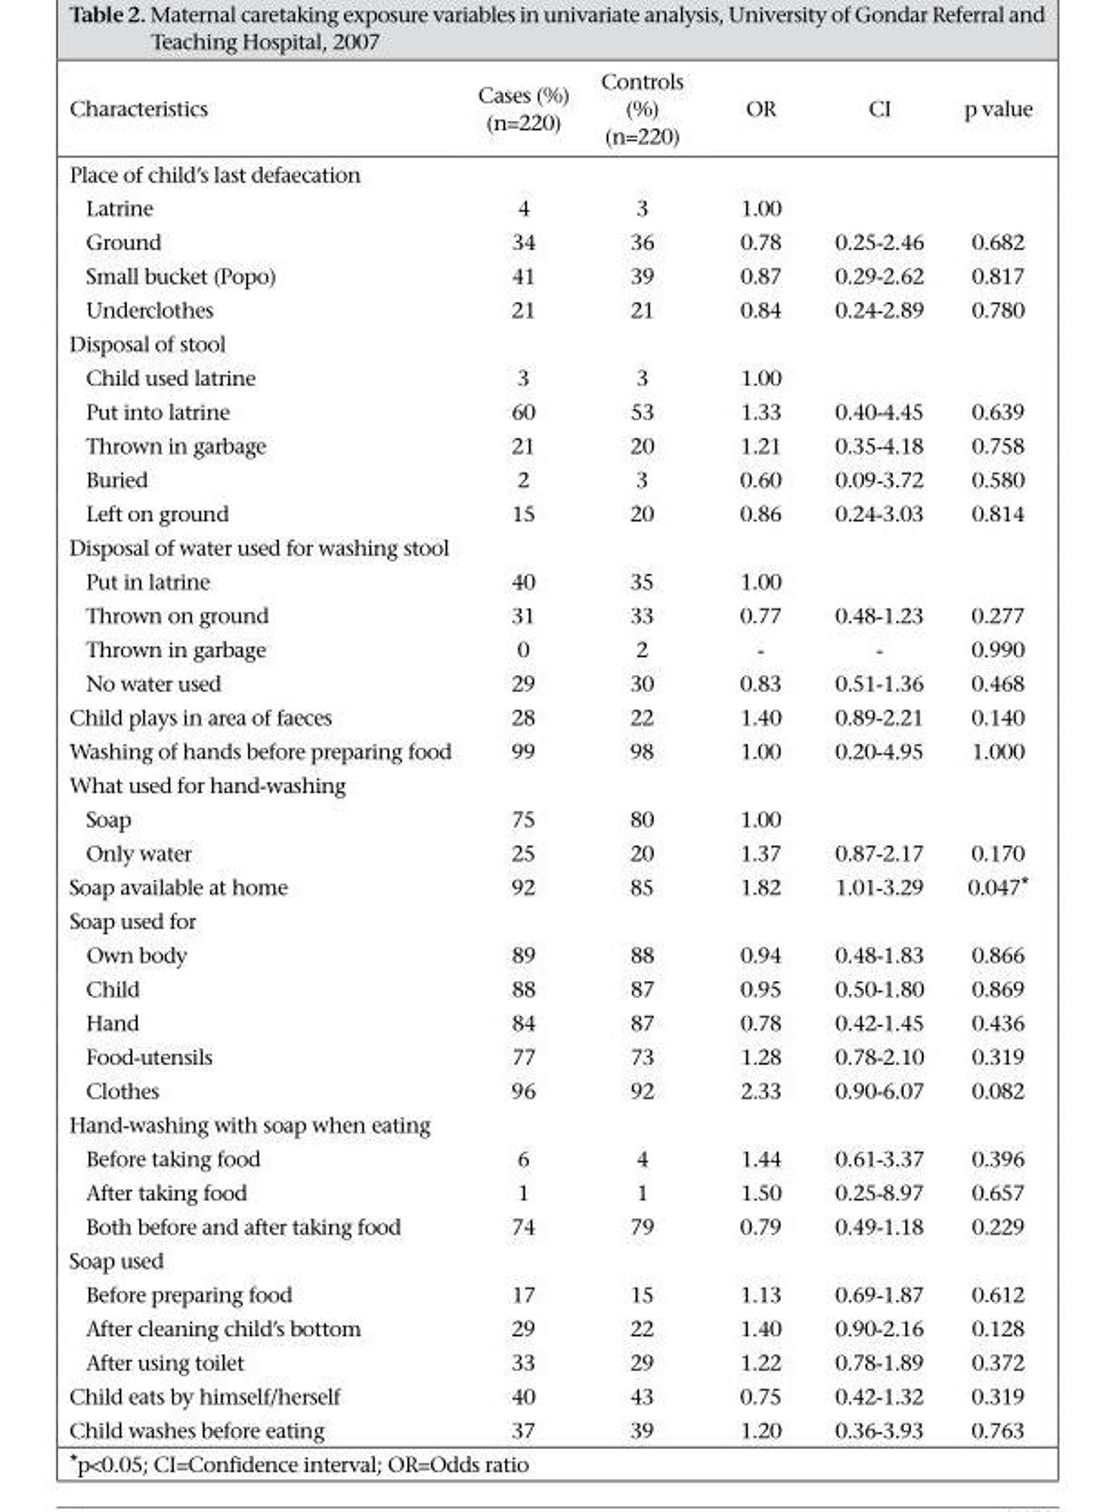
<table><thead><tr><td>Characteristics</td><td>Cases (%) (n=220)</td><td>Controls (%) (n=220)</td><td>OR</td><td>CI</td><td>p value</td></tr></thead><tbody><tr><td colspan="6">Place of child’s last defaecation</td></tr><tr><td>Latrine</td><td>4</td><td>3</td><td>1.00</td><td></td><td></td></tr><tr><td>Ground</td><td>34</td><td>36</td><td>0.78</td><td>0.25-2.46</td><td>0.682</td></tr><tr><td>Small bucket (Popo)</td><td>41</td><td>39</td><td>0.87</td><td>0.29-2.62</td><td>0.817</td></tr><tr><td>Underclothes</td><td>21</td><td>21</td><td>0.84</td><td>0.24-2.89</td><td>0.780</td></tr><tr><td colspan="6">Disposal of stool</td></tr><tr><td>Child used latrine</td><td>3</td><td>3</td><td>1.00</td><td></td><td></td></tr><tr><td>Put into latrine</td><td>60</td><td>53</td><td>1.33</td><td>0.40-4.45</td><td>0.639</td></tr><tr><td>Thrown in garbage</td><td>21</td><td>20</td><td>1.21</td><td>0.35-4.18</td><td>0.758</td></tr><tr><td>Buried</td><td>2</td><td>3</td><td>0.60</td><td>0.09-3.72</td><td>0.580</td></tr><tr><td>Left on ground</td><td>15</td><td>20</td><td>0.86</td><td>0.24-3.03</td><td>0.814</td></tr><tr><td colspan="6">Disposal of water used for washing stool</td></tr><tr><td>Put in latrine</td><td>40</td><td>35</td><td>1.00</td><td></td><td></td></tr><tr><td>Thrown on ground</td><td>31</td><td>33</td><td>0.77</td><td>0.48-1.23</td><td>0.277</td></tr><tr><td>Thrown in garbage</td><td>0</td><td>2</td><td>-</td><td>-</td><td>0.990</td></tr><tr><td>No water used</td><td>29</td><td>30</td><td>0.83</td><td>0.51-1.36</td><td>0.468</td></tr><tr><td>Child plays in area of faeces</td><td>28</td><td>22</td><td>1.40</td><td>0.89-2.21</td><td>0.140</td></tr><tr><td>Washing of hands before preparing food</td><td>99</td><td>98</td><td>1.00</td><td>0.20-4.95</td><td>1.000</td></tr><tr><td colspan="6">What used for hand-washing</td></tr><tr><td>Soap</td><td>75</td><td>80</td><td>1.00</td><td></td><td></td></tr><tr><td>Only water</td><td>25</td><td>20</td><td>1.37</td><td>0.87-2.17</td><td>0.170</td></tr><tr><td>Soap available at home</td><td>92</td><td>85</td><td>1.82</td><td>1.01-3.29</td><td>0.047*</td></tr><tr><td colspan="6">Soap used for</td></tr><tr><td>Own body</td><td>89</td><td>88</td><td>0.94</td><td>0.48-1.83</td><td>0.866</td></tr><tr><td>Child</td><td>88</td><td>87</td><td>0.95</td><td>0.50-1.80</td><td>0.869</td></tr><tr><td>Hand</td><td>84</td><td>87</td><td>0.78</td><td>0.42-1.45</td><td>0.436</td></tr><tr><td>Food-utensils</td><td>77</td><td>73</td><td>1.28</td><td>0.78-2.10</td><td>0.319</td></tr><tr><td>Clothes</td><td>96</td><td>92</td><td>2.33</td><td>0.90-6.07</td><td>0.082</td></tr><tr><td colspan="6">Hand-washing with soap when eating</td></tr><tr><td>Before taking food</td><td>6</td><td>4</td><td>1.44</td><td>0.61-3.37</td><td>0.396</td></tr><tr><td>After taking food</td><td>1</td><td>1</td><td>1.50</td><td>0.25-8.97</td><td>0.657</td></tr><tr><td>Both before and after taking food</td><td>74</td><td>79</td><td>0.79</td><td>0.49-1.18</td><td>0.229</td></tr><tr><td colspan="6">Soap used</td></tr><tr><td>Before preparing food</td><td>17</td><td>15</td><td>1.13</td><td>0.69-1.87</td><td>0.612</td></tr><tr><td>After cleaning child’s bottom</td><td>29</td><td>22</td><td>1.40</td><td>0.90-2.16</td><td>0.128</td></tr><tr><td>After using toilet</td><td>33</td><td>29</td><td>1.22</td><td>0.78-1.89</td><td>0.372</td></tr><tr><td>Child eats by himself/herself</td><td>40</td><td>43</td><td>0.75</td><td>0.42-1.32</td><td>0.319</td></tr><tr><td>Child washes before eating</td><td>37</td><td>39</td><td>1.20</td><td>0.36-3.93</td><td>0.763</td></tr></tbody></table>